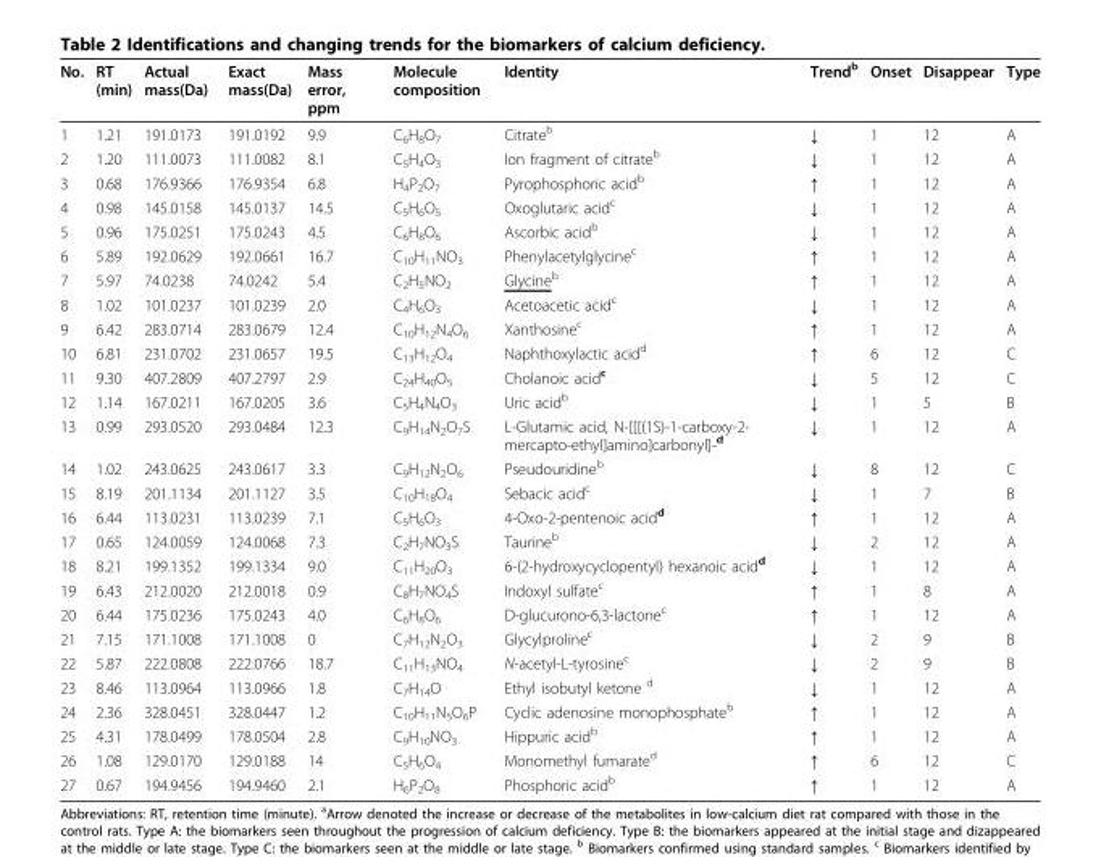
<table><thead><tr><td>No.</td><td>RT (min)</td><td>Actual mass(Da)</td><td>Exact mass(Da)</td><td>Mass error, ppm</td><td>Molecule composition</td><td>Identity</td><td>Trend<sup>b</sup></td><td>Onset</td><td>Disappear</td><td>Type</td></tr></thead><tbody><tr><td>1</td><td>1.21</td><td>191.0173</td><td>191.0192</td><td>9.9</td><td>C<sub>6</sub>H<sub>8</sub>O<sub>7</sub></td><td>Citrate<sup>b</sup></td><td>↓</td><td>1</td><td>12</td><td>A</td></tr><tr><td>2</td><td>1.20</td><td>111.0073</td><td>111.0082</td><td>8.1</td><td>C<sub>5</sub>H<sub>4</sub>O<sub>3</sub></td><td>Ion fragment of citrate<sup>b</sup></td><td>↓</td><td>1</td><td>12</td><td>A</td></tr><tr><td>3</td><td>0.68</td><td>176.9366</td><td>176.9354</td><td>6.8</td><td>H<sub>4</sub>P<sub>2</sub>O<sub>7</sub></td><td>Pyrophosphoric acid<sup>b</sup></td><td>↑</td><td>1</td><td>12</td><td>A</td></tr><tr><td>4</td><td>0.98</td><td>145.0158</td><td>145.0137</td><td>14.5</td><td>C<sub>5</sub>H<sub>6</sub>O<sub>5</sub></td><td>Oxoglutaric acid<sup>c</sup></td><td>↓</td><td>1</td><td>12</td><td>A</td></tr><tr><td>5</td><td>0.96</td><td>175.0251</td><td>175.0243</td><td>4.5</td><td>C<sub>6</sub>H<sub>8</sub>O<sub>6</sub></td><td>Ascorbic acid<sup>b</sup></td><td>↓</td><td>1</td><td>12</td><td>A</td></tr><tr><td>6</td><td>5.89</td><td>192.0629</td><td>192.0661</td><td>16.7</td><td>C<sub>10</sub>H<sub>11</sub>NO<sub>3</sub></td><td>Phenylacetylglycine<sup>c</sup></td><td>↑</td><td>1</td><td>12</td><td>A</td></tr><tr><td>7</td><td>5.97</td><td>74.0238</td><td>74.0242</td><td>5.4</td><td>C<sub>2</sub>H<sub>5</sub>NO<sub>2</sub></td><td>Glycine<sup>b</sup></td><td>↑</td><td>1</td><td>12</td><td>A</td></tr><tr><td>8</td><td>1.02</td><td>101.0237</td><td>101.0239</td><td>2.0</td><td>C<sub>4</sub>H<sub>6</sub>O<sub>3</sub></td><td>Acetoacetic acid<sup>c</sup></td><td>↓</td><td>1</td><td>12</td><td>A</td></tr><tr><td>9</td><td>6.42</td><td>283.0714</td><td>283.0679</td><td>12.4</td><td>C<sub>10</sub>H<sub>12</sub>N<sub>4</sub>O<sub>6</sub></td><td>Xanthosine<sup>c</sup></td><td>↑</td><td>1</td><td>12</td><td>A</td></tr><tr><td>10</td><td>6.81</td><td>231.0702</td><td>231.0657</td><td>19.5</td><td>C<sub>13</sub>H<sub>12</sub>O<sub>4</sub></td><td>Naphthoxylactic acid<sup>d</sup></td><td>↑</td><td>6</td><td>12</td><td>C</td></tr><tr><td>11</td><td>9.30</td><td>407.2809</td><td>407.2797</td><td>2.9</td><td>C<sub>24</sub>H<sub>40</sub>O<sub>5</sub></td><td>Cholanoic acid<sup>c</sup></td><td>↓</td><td>5</td><td>12</td><td>C</td></tr><tr><td>12</td><td>1.14</td><td>167.0211</td><td>167.0205</td><td>3.6</td><td>C<sub>5</sub>H<sub>4</sub>N<sub>4</sub>O<sub>3</sub></td><td>Uric acid<sup>b</sup></td><td>↓</td><td>1</td><td>5</td><td>B</td></tr><tr><td>13</td><td>0.99</td><td>293.0520</td><td>293.0484</td><td>12.3</td><td>C<sub>9</sub>H<sub>14</sub>N<sub>2</sub>O<sub>7</sub>S</td><td>L-Glutamic acid, N-[[[(1S)-1-carboxy-2- mercapto-ethyl]amino]carbonyl]-<sup>d</sup></td><td>↓</td><td>1</td><td>12</td><td>A</td></tr><tr><td>14</td><td>1.02</td><td>243.0625</td><td>243.0617</td><td>3.3</td><td>C<sub>9</sub>H<sub>12</sub>N<sub>2</sub>O<sub>6</sub></td><td>Pseudouridine<sup>b</sup></td><td>↓</td><td>8</td><td>12</td><td>C</td></tr><tr><td>15</td><td>8.19</td><td>201.1134</td><td>201.1127</td><td>3.5</td><td>C<sub>10</sub>H<sub>18</sub>O<sub>4</sub></td><td>Sebacic acid<sup>c</sup></td><td>↓</td><td>1</td><td>7</td><td>B</td></tr><tr><td>16</td><td>6.44</td><td>113.0231</td><td>113.0239</td><td>7.1</td><td>C<sub>5</sub>H<sub>6</sub>O<sub>3</sub></td><td>4-Oxo-2-pentenoic acid<sup>d</sup></td><td>↑</td><td>1</td><td>12</td><td>A</td></tr><tr><td>17</td><td>0.65</td><td>124.0059</td><td>124.0068</td><td>7.3</td><td>C<sub>2</sub>H<sub>7</sub>NO<sub>3</sub>S</td><td>Taurine<sup>b</sup></td><td>↓</td><td>2</td><td>12</td><td>A</td></tr><tr><td>18</td><td>8.21</td><td>199.1352</td><td>199.1334</td><td>9.0</td><td>C<sub>11</sub>H<sub>20</sub>O<sub>3</sub></td><td>6-(2-hydroxycyclopentyl) hexanoic acid<sup>d</sup></td><td>↓</td><td>1</td><td>12</td><td>A</td></tr><tr><td>19</td><td>6.43</td><td>212.0020</td><td>212.0018</td><td>0.9</td><td>C<sub>8</sub>H<sub>7</sub>NO<sub>4</sub>S</td><td>Indoxyl sulfate<sup>c</sup></td><td>↑</td><td>1</td><td>8</td><td>A</td></tr><tr><td>20</td><td>6.44</td><td>175.0236</td><td>175.0243</td><td>4.0</td><td>C<sub>6</sub>H<sub>8</sub>O<sub>6</sub></td><td>D-glucurono-6,3-lactone<sup>c</sup></td><td>↑</td><td>1</td><td>12</td><td>A</td></tr><tr><td>21</td><td>7.15</td><td>171.1008</td><td>171.1008</td><td>0</td><td>C<sub>7</sub>H<sub>12</sub>N<sub>2</sub>O<sub>3</sub></td><td>Glycylproline<sup>c</sup></td><td>↓</td><td>2</td><td>9</td><td>B</td></tr><tr><td>22</td><td>5.87</td><td>222.0808</td><td>222.0766</td><td>18.7</td><td>C<sub>11</sub>H<sub>13</sub>NO<sub>4</sub></td><td>N-acetyl-L-tyrosine<sup>c</sup></td><td>↓</td><td>2</td><td>9</td><td>B</td></tr><tr><td>23</td><td>8.46</td><td>113.0964</td><td>113.0966</td><td>1.8</td><td>C<sub>7</sub>H<sub>14</sub>O</td><td>Ethyl isobutyl ketone <sup>d</sup></td><td>↓</td><td>1</td><td>12</td><td>A</td></tr><tr><td>24</td><td>2.36</td><td>328.0451</td><td>328.0447</td><td>1.2</td><td>C<sub>10</sub>H<sub>11</sub>N<sub>5</sub>O<sub>6</sub>P</td><td>Cyclic adenosine monophosphate<sup>b</sup></td><td>↑</td><td>1</td><td>12</td><td>A</td></tr><tr><td>25</td><td>4.31</td><td>178.0499</td><td>178.0504</td><td>2.8</td><td>C<sub>9</sub>H<sub>10</sub>NO<sub>3</sub></td><td>Hippuric acid<sup>b</sup></td><td>↑</td><td>1</td><td>12</td><td>A</td></tr><tr><td>26</td><td>1.08</td><td>129.0170</td><td>129.0188</td><td>14</td><td>C<sub>5</sub>H<sub>6</sub>O<sub>4</sub></td><td>Monomethyl fumarate<sup>d</sup></td><td>↑</td><td>6</td><td>12</td><td>C</td></tr><tr><td>27</td><td>0.67</td><td>194.9456</td><td>194.9460</td><td>2.1</td><td>H<sub>6</sub>P<sub>2</sub>O<sub>8</sub></td><td>Phosphoric acid<sup>b</sup></td><td>↑</td><td>1</td><td>12</td><td>A</td></tr></tbody></table>